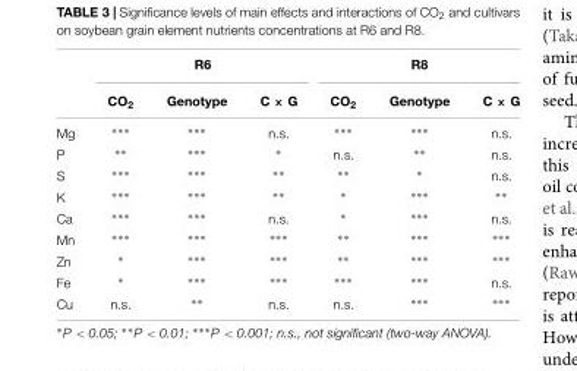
<table><thead><tr><td rowspan="2"></td><td colspan="3">R6</td><td colspan="3">R8</td></tr><tr><td>CO<sub>2</sub></td><td>Genotype</td><td>C × G</td><td>CO<sub>2</sub></td><td>Genotype</td><td>C × G</td></tr></thead><tbody><tr><td>Mg</td><td>∗∗∗</td><td>∗∗∗</td><td>n.s.</td><td>∗∗∗</td><td>∗∗∗</td><td>n.s.</td></tr><tr><td>P</td><td>∗∗</td><td>∗∗∗</td><td>∗</td><td>n.s.</td><td>∗∗</td><td>n.s.</td></tr><tr><td>S</td><td>∗∗∗</td><td>∗∗∗</td><td>∗∗</td><td>∗∗</td><td>∗</td><td>n.s.</td></tr><tr><td>K</td><td>∗∗∗</td><td>∗∗∗</td><td>∗∗</td><td>∗</td><td>∗∗∗</td><td>∗∗</td></tr><tr><td>Ca</td><td>∗∗∗</td><td>∗∗∗</td><td>n.s.</td><td>∗</td><td>∗∗∗</td><td>n.s.</td></tr><tr><td>Mn</td><td>∗∗∗</td><td>∗∗∗</td><td>∗∗∗</td><td>∗∗</td><td>∗∗∗</td><td>∗∗∗</td></tr><tr><td>Zn</td><td>∗</td><td>∗∗∗</td><td>∗∗∗</td><td>∗∗</td><td>∗∗∗</td><td>∗∗∗</td></tr><tr><td>Fe</td><td>∗</td><td>∗∗∗</td><td>∗∗∗</td><td>∗∗∗</td><td>∗∗∗</td><td>n.s.</td></tr><tr><td>Cu</td><td>n.s.</td><td>∗∗</td><td>n.s.</td><td>n.s.</td><td>∗∗∗</td><td>∗∗∗</td></tr></tbody></table>